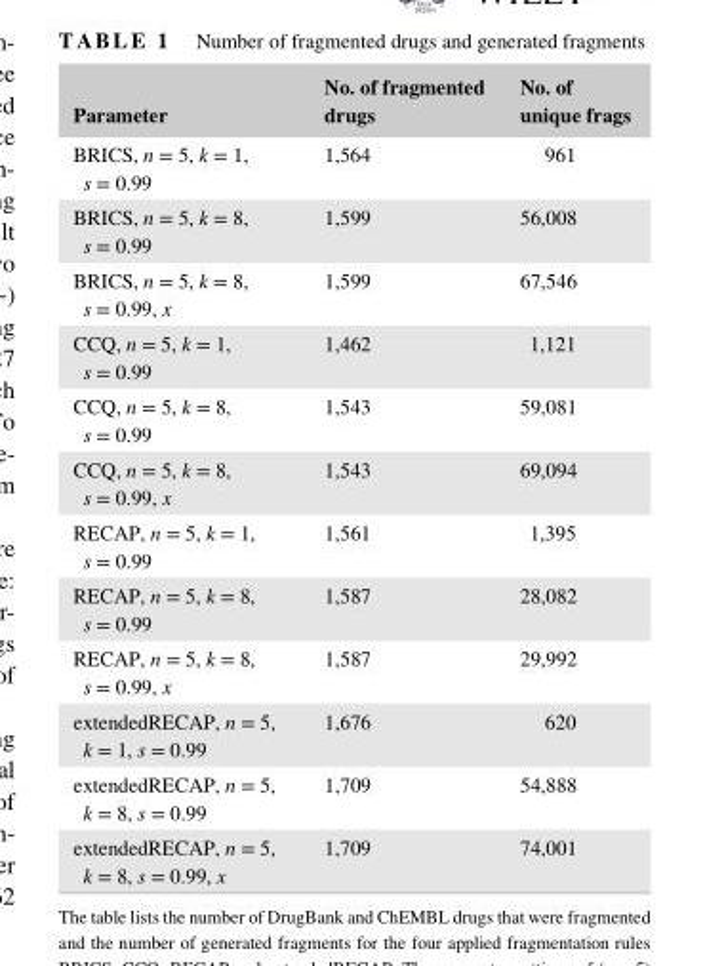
<table><thead><tr><td>Parameter</td><td>No. of fragmented drugs</td><td>No. of unique frags</td></tr></thead><tbody><tr><td>BRICS, n = 5, k = 1, s = 0.99</td><td>1,564</td><td>961</td></tr><tr><td>BRICS, n = 5, k = 8, s = 0.99</td><td>1,599</td><td>56,008</td></tr><tr><td>BRICS, n = 5, k = 8, s = 0.99, x</td><td>1,599</td><td>67,546</td></tr><tr><td>CCQ, n = 5, k = 1, s = 0.99</td><td>1,462</td><td>1,121</td></tr><tr><td>CCQ, n = 5, k = 8, s = 0.99</td><td>1,543</td><td>59,081</td></tr><tr><td>CCQ, n = 5, k = 8, s = 0.99, x</td><td>1,543</td><td>69,094</td></tr><tr><td>RECAP, n = 5, k = 1, s = 0.99</td><td>1,561</td><td>1,395</td></tr><tr><td>RECAP, n = 5, k = 8, s = 0.99</td><td>1,587</td><td>28,082</td></tr><tr><td>RECAP, n = 5, k = 8, s = 0.99, x</td><td>1,587</td><td>29,992</td></tr><tr><td>extendedRECAP, n = 5, k = 1, s = 0.99</td><td>1,676</td><td>620</td></tr><tr><td>extendedRECAP, n = 5, k = 8, s = 0.99</td><td>1,709</td><td>54,888</td></tr><tr><td>extendedRECAP, n = 5, k = 8, s = 0.99, x</td><td>1,709</td><td>74,001</td></tr></tbody></table>